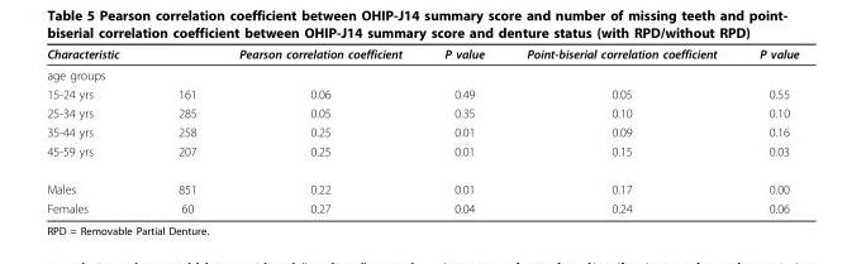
<table><thead><tr><td>Characteristic</td><td></td><td>Pearson correlation coefficient</td><td>P value</td><td>Point-biserial correlation coefficient</td><td>P value</td></tr></thead><tbody><tr><td colspan="6">age groups</td></tr><tr><td>15-24 yrs</td><td>161</td><td>0.06</td><td>0.49</td><td>0.05</td><td>0.55</td></tr><tr><td>25-34 yrs</td><td>285</td><td>0.05</td><td>0.35</td><td>0.10</td><td>0.10</td></tr><tr><td>35-44 yrs</td><td>258</td><td>0.25</td><td>0.01</td><td>0.09</td><td>0.16</td></tr><tr><td>45-59 yrs</td><td>207</td><td>0.25</td><td>0.01</td><td>0.15</td><td>0.03</td></tr><tr><td>Males</td><td>851</td><td>0.22</td><td>0.01</td><td>0.17</td><td>0.00</td></tr><tr><td>Females</td><td>60</td><td>0.27</td><td>0.04</td><td>0.24</td><td>0.06</td></tr></tbody></table>